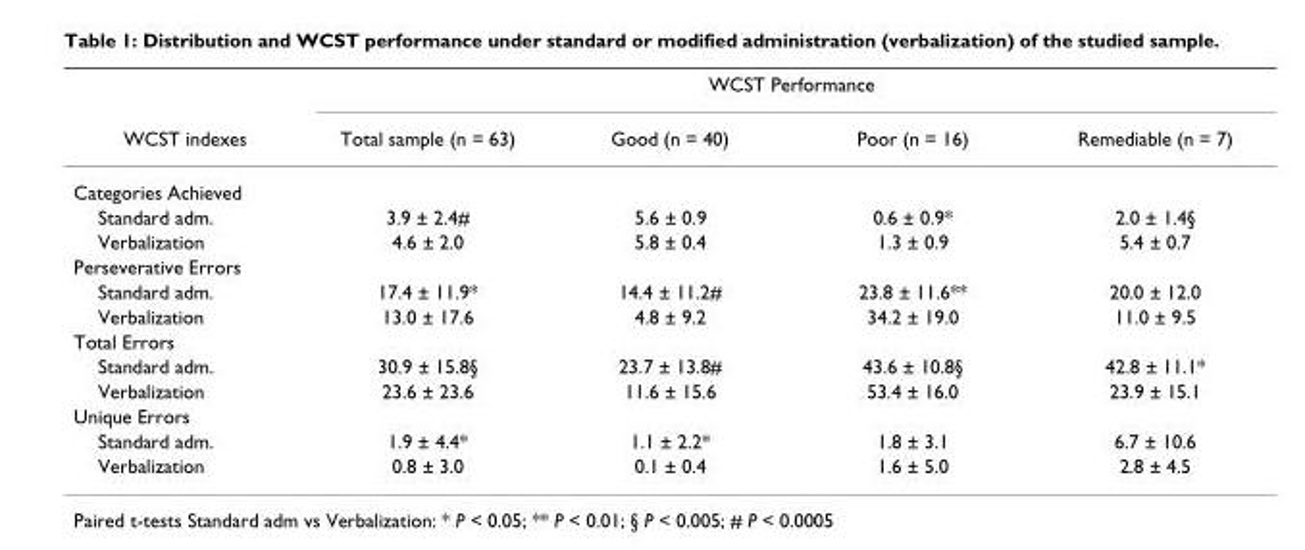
<table><thead><tr><td rowspan="2">WCST indexes</td><td colspan="4">WCST Performance</td></tr><tr><td>Total sample (n = 63)</td><td>Good (n = 40)</td><td>Poor (n = 16)</td><td>Remediable (n = 7)</td></tr></thead><tbody><tr><td colspan="5">Categories Achieved</td></tr><tr><td>Standard adm.</td><td>3.9 ± 2.4#</td><td>5.6 ± 0.9</td><td>0.6 ± 0.9*</td><td>2.0 ± 1.4§</td></tr><tr><td>Verbalization</td><td>4.6 ± 2.0</td><td>5.8 ± 0.4</td><td>1.3 ± 0.9</td><td>5.4 ± 0.7</td></tr><tr><td colspan="5">Perseverative Errors</td></tr><tr><td>Standard adm.</td><td>17.4 ± 11.9*</td><td>14.4 ± 11.2#</td><td>23.8 ± 11.6**</td><td>20.0 ± 12.0</td></tr><tr><td>Verbalization</td><td>13.0 ± 17.6</td><td>4.8 ± 9.2</td><td>34.2 ± 19.0</td><td>11.0 ± 9.5</td></tr><tr><td colspan="5">Total Errors</td></tr><tr><td>Standard adm.</td><td>30.9 ± 15.8§</td><td>23.7 ± 13.8#</td><td>43.6 ± 10.8§</td><td>42.8 ± 11.1*</td></tr><tr><td>Verbalization</td><td>23.6 ± 23.6</td><td>11.6 ± 15.6</td><td>53.4 ± 16.0</td><td>23.9 ± 15.1</td></tr><tr><td colspan="5">Unique Errors</td></tr><tr><td>Standard adm.</td><td>1.9 ± 4.4*</td><td>1.1 ± 2.2*</td><td>1.8 ± 3.1</td><td>6.7 ± 10.6</td></tr><tr><td>Verbalization</td><td>0.8 ± 3.0</td><td>0.1 ± 0.4</td><td>1.6 ± 5.0</td><td>2.8 ± 4.5</td></tr></tbody></table>